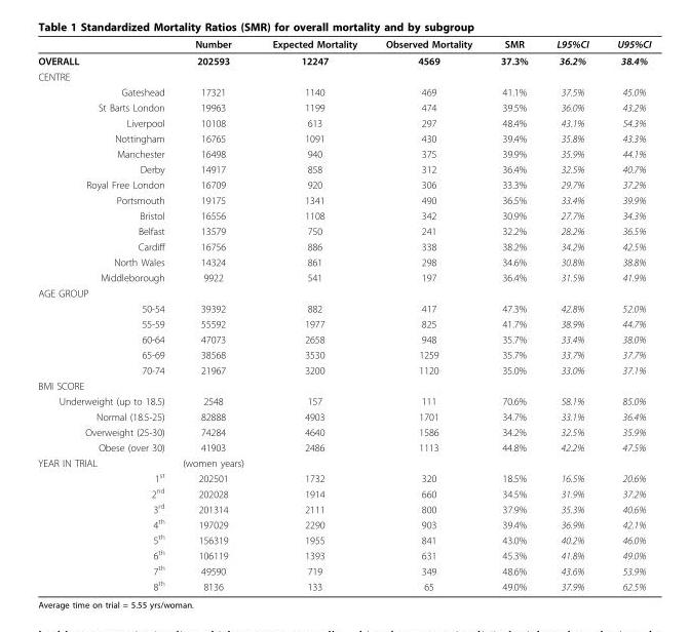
<table><thead><tr><td></td><td>Number</td><td>Expected Mortality</td><td>Observed Mortality</td><td>SMR</td><td>L95%CI</td><td>U95%CI</td></tr></thead><tbody><tr><td>OVERALL</td><td>202593</td><td>12247</td><td>4569</td><td>37.3%</td><td>36.2%</td><td>38.4%</td></tr><tr><td colspan="7">CENTRE</td></tr><tr><td>Gateshead</td><td>17321</td><td>1140</td><td>469</td><td>41.1%</td><td>37.5%</td><td>45.0%</td></tr><tr><td>St Barts London</td><td>19963</td><td>1199</td><td>474</td><td>39.5%</td><td>36.0%</td><td>43.2%</td></tr><tr><td>Liverpool</td><td>10108</td><td>613</td><td>297</td><td>48.4%</td><td>43.1%</td><td>54.3%</td></tr><tr><td>Nottingham</td><td>16765</td><td>1091</td><td>430</td><td>39.4%</td><td>35.8%</td><td>43.3%</td></tr><tr><td>Manchester</td><td>16498</td><td>940</td><td>375</td><td>39.9%</td><td>35.9%</td><td>44.1%</td></tr><tr><td>Derby</td><td>14917</td><td>858</td><td>312</td><td>36.4%</td><td>32.5%</td><td>40.7%</td></tr><tr><td>Royal Free London</td><td>16709</td><td>920</td><td>306</td><td>33.3%</td><td>29.7%</td><td>37.2%</td></tr><tr><td>Portsmouth</td><td>19175</td><td>1341</td><td>490</td><td>36.5%</td><td>33.4%</td><td>39.9%</td></tr><tr><td>Bristol</td><td>16556</td><td>1108</td><td>342</td><td>30.9%</td><td>27.7%</td><td>34.3%</td></tr><tr><td>Belfast</td><td>13579</td><td>750</td><td>241</td><td>32.2%</td><td>28.2%</td><td>36.5%</td></tr><tr><td>Cardiff</td><td>16756</td><td>886</td><td>338</td><td>38.2%</td><td>34.2%</td><td>42.5%</td></tr><tr><td>North Wales</td><td>14324</td><td>861</td><td>298</td><td>34.6%</td><td>30.8%</td><td>38.8%</td></tr><tr><td>Middleborough</td><td>9922</td><td>541</td><td>197</td><td>36.4%</td><td>31.5%</td><td>41.9%</td></tr><tr><td colspan="7">AGE GROUP</td></tr><tr><td>50-54</td><td>39392</td><td>882</td><td>417</td><td>47.3%</td><td>42.8%</td><td>52.0%</td></tr><tr><td>55-59</td><td>55592</td><td>1977</td><td>825</td><td>41.7%</td><td>38.9%</td><td>44.7%</td></tr><tr><td>60-64</td><td>47073</td><td>2658</td><td>948</td><td>35.7%</td><td>33.4%</td><td>38.0%</td></tr><tr><td>65-69</td><td>38568</td><td>3530</td><td>1259</td><td>35.7%</td><td>33.7%</td><td>37.7%</td></tr><tr><td>70-74</td><td>21967</td><td>3200</td><td>1120</td><td>35.0%</td><td>33.0%</td><td>37.1%</td></tr><tr><td colspan="7">BMI SCORE</td></tr><tr><td>Underweight (up to 18.5)</td><td>2548</td><td>157</td><td>111</td><td>70.6%</td><td>58.1%</td><td>85.0%</td></tr><tr><td>Normal (18.5-25)</td><td>82888</td><td>4903</td><td>1701</td><td>34.7%</td><td>33.1%</td><td>36.4%</td></tr><tr><td>Overweight (25-30)</td><td>74284</td><td>4640</td><td>1586</td><td>34.2%</td><td>32.5%</td><td>35.9%</td></tr><tr><td>Obese (over 30)</td><td>41903</td><td>2486</td><td>1113</td><td>44.8%</td><td>42.2%</td><td>47.5%</td></tr><tr><td>YEAR IN TRIAL</td><td>(women years)</td><td></td><td></td><td></td><td></td><td></td></tr><tr><td>1<sup>st</sup></td><td>202501</td><td>1732</td><td>320</td><td>18.5%</td><td>16.5%</td><td>20.6%</td></tr><tr><td>2<sup>nd</sup></td><td>202028</td><td>1914</td><td>660</td><td>34.5%</td><td>31.9%</td><td>37.2%</td></tr><tr><td>3<sup>rd</sup></td><td>201314</td><td>2111</td><td>800</td><td>37.9%</td><td>35.3%</td><td>40.6%</td></tr><tr><td>4<sup>th</sup></td><td>197029</td><td>2290</td><td>903</td><td>39.4%</td><td>36.9%</td><td>42.1%</td></tr><tr><td>5<sup>th</sup></td><td>156319</td><td>1955</td><td>841</td><td>43.0%</td><td>40.2%</td><td>46.0%</td></tr><tr><td>6<sup>th</sup></td><td>106119</td><td>1393</td><td>631</td><td>45.3%</td><td>41.8%</td><td>49.0%</td></tr><tr><td>7<sup>th</sup></td><td>49590</td><td>719</td><td>349</td><td>48.6%</td><td>43.6%</td><td>53.9%</td></tr><tr><td>8<sup>th</sup></td><td>8136</td><td>133</td><td>65</td><td>49.0%</td><td>37.9%</td><td>62.5%</td></tr></tbody></table>